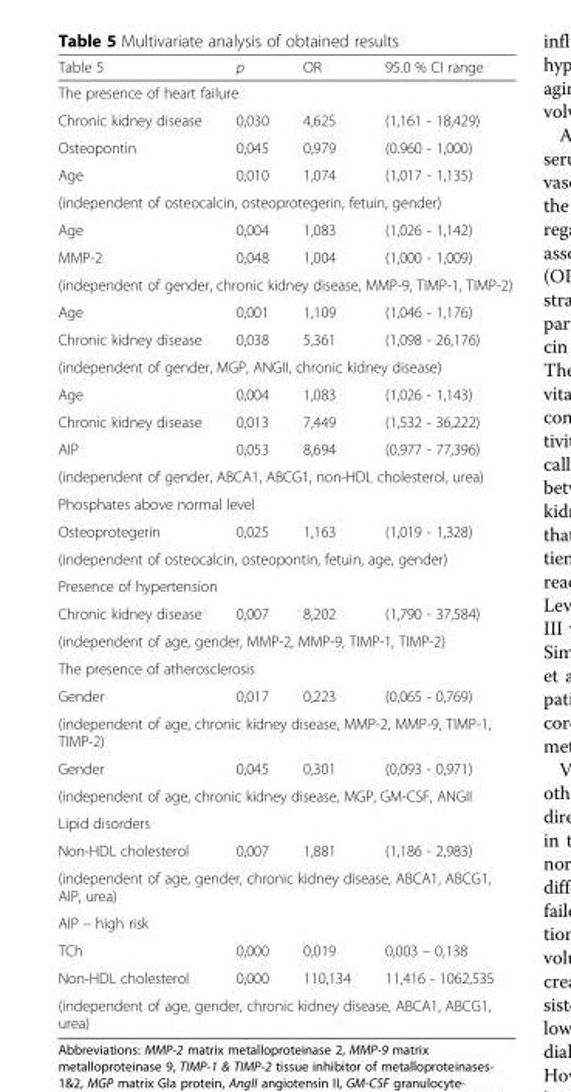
<table><thead><tr><td>Table 5</td><td>p</td><td>OR</td><td>95.0 % CI range</td></tr></thead><tbody><tr><td colspan="4">The presence of heart failure</td></tr><tr><td>Chronic kidney disease</td><td>0,030</td><td>4,625</td><td>(1,161 - 18,429)</td></tr><tr><td>Osteopontin</td><td>0,045</td><td>0,979</td><td>(0.960 - 1,000)</td></tr><tr><td>Age</td><td>0,010</td><td>1,074</td><td>(1,017 - 1,135)</td></tr><tr><td colspan="4">(independent of osteocalcin, osteoprotegerin, fetuin, gender)</td></tr><tr><td>Age</td><td>0,004</td><td>1,083</td><td>(1,026 - 1,142)</td></tr><tr><td>MMP-2</td><td>0,048</td><td>1,004</td><td>(1,000 - 1,009)</td></tr><tr><td colspan="4">(independent of gender, chronic kidney disease, MMP-9, TIMP-1, TIMP-2)</td></tr><tr><td>Age</td><td>0,001</td><td>1,109</td><td>(1,046 - 1,176)</td></tr><tr><td>Chronic kidney disease</td><td>0,038</td><td>5,361</td><td>(1,098 - 26,176)</td></tr><tr><td colspan="4">(independent of gender, MGP, ANGII, chronic kidney disease)</td></tr><tr><td>Age</td><td>0,004</td><td>1,083</td><td>(1,026 - 1,143)</td></tr><tr><td>Chronic kidney disease</td><td>0,013</td><td>7,449</td><td>(1,532 - 36,222)</td></tr><tr><td>AIP</td><td>0,053</td><td>8,694</td><td>(0,977 - 77,396)</td></tr><tr><td colspan="4">(independent of gender, ABCA1, ABCG1, non-HDL cholesterol, urea)</td></tr><tr><td colspan="4">Phosphates above normal level</td></tr><tr><td>Osteoprotegerin</td><td>0,025</td><td>1,163</td><td>(1,019 - 1,328)</td></tr><tr><td colspan="4">(independent of osteocalcin, osteopontin, fetuin, age, gender)</td></tr><tr><td colspan="4">Presence of hypertension</td></tr><tr><td>Chronic kidney disease</td><td>0,007</td><td>8,202</td><td>(1,790 - 37,584)</td></tr><tr><td colspan="4">(independent of age, gender, MMP-2, MMP-9, TIMP-1, TIMP-2)</td></tr><tr><td colspan="4">The presence of atherosclerosis</td></tr><tr><td>Gender</td><td>0,017</td><td>0,223</td><td>(0,065 - 0,769)</td></tr><tr><td colspan="4">(independent of age, chronic kidney disease, MMP-2, MMP-9, TIMP-1, TIMP-2)</td></tr><tr><td>Gender</td><td>0,045</td><td>0,301</td><td>(0,093 - 0,971)</td></tr><tr><td colspan="4">(independent of age, chronic kidney disease, MGP, GM-CSF, ANGII</td></tr><tr><td colspan="4">Lipid disorders</td></tr><tr><td>Non-HDL cholesterol</td><td>0,007</td><td>1,881</td><td>(1,186 - 2,983)</td></tr><tr><td colspan="4">(independent of age, gender, chronic kidney disease, ABCA1, ABCG1, AIP, urea)</td></tr><tr><td colspan="4">AIP – high risk</td></tr><tr><td>TCh</td><td>0,000</td><td>0,019</td><td>0,003 – 0,138</td></tr><tr><td>Non-HDL cholesterol</td><td>0,000</td><td>110,134</td><td>11,416 - 1062,535</td></tr><tr><td colspan="4">(independent of age, gender, chronic kidney disease, ABCA1, ABCG1, urea)</td></tr></tbody></table>